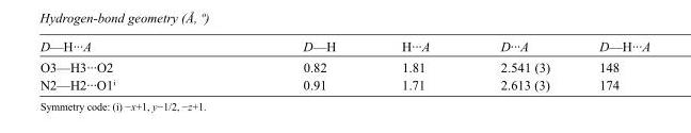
<table><tbody><tr><td>D—H···A</td><td>D—H</td><td>H···A</td><td>D···A</td><td>D—H···A</td></tr><tr><td>O3—H3···O2</td><td>0.82</td><td>1.81</td><td>2.541 (3)</td><td>148</td></tr><tr><td>N2—H2···O1<sup>i</sup></td><td>0.91</td><td>1.71</td><td>2.613 (3)</td><td>174</td></tr></tbody></table>